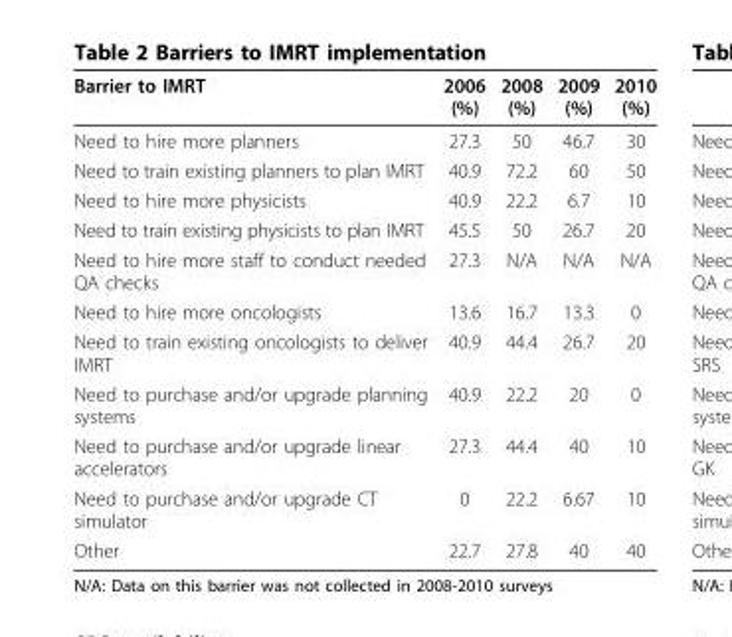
<table><thead><tr><td>Barrier to IMRT</td><td>2006 (%)</td><td>2008 (%)</td><td>2009 (%)</td><td>2010 (%)</td></tr></thead><tbody><tr><td>Need to hire more planners</td><td>27.3</td><td>50</td><td>46.7</td><td>30</td></tr><tr><td>Need to train existing planners to plan IMRT</td><td>40.9</td><td>72.2</td><td>60</td><td>50</td></tr><tr><td>Need to hire more physicists</td><td>40.9</td><td>22.2</td><td>6.7</td><td>10</td></tr><tr><td>Need to train existing physicists to plan IMRT</td><td>45.5</td><td>50</td><td>26.7</td><td>20</td></tr><tr><td>Need to hire more staff to conduct needed QA checks</td><td>27.3</td><td>N/A</td><td>N/A</td><td>N/A</td></tr><tr><td>Need to hire more oncologists</td><td>13.6</td><td>16.7</td><td>13.3</td><td>0</td></tr><tr><td>Need to train existing oncologists to deliver IMRT</td><td>40.9</td><td>44.4</td><td>26.7</td><td>20</td></tr><tr><td>Need to purchase and/or upgrade planning systems</td><td>40.9</td><td>22.2</td><td>20</td><td>0</td></tr><tr><td>Need to purchase and/or upgrade linear accelerators</td><td>27.3</td><td>44.4</td><td>40</td><td>10</td></tr><tr><td>Need to purchase and/or upgrade CT simulator</td><td>0</td><td>22.2</td><td>6.67</td><td>10</td></tr><tr><td>Other</td><td>22.7</td><td>27.8</td><td>40</td><td>40</td></tr></tbody></table>